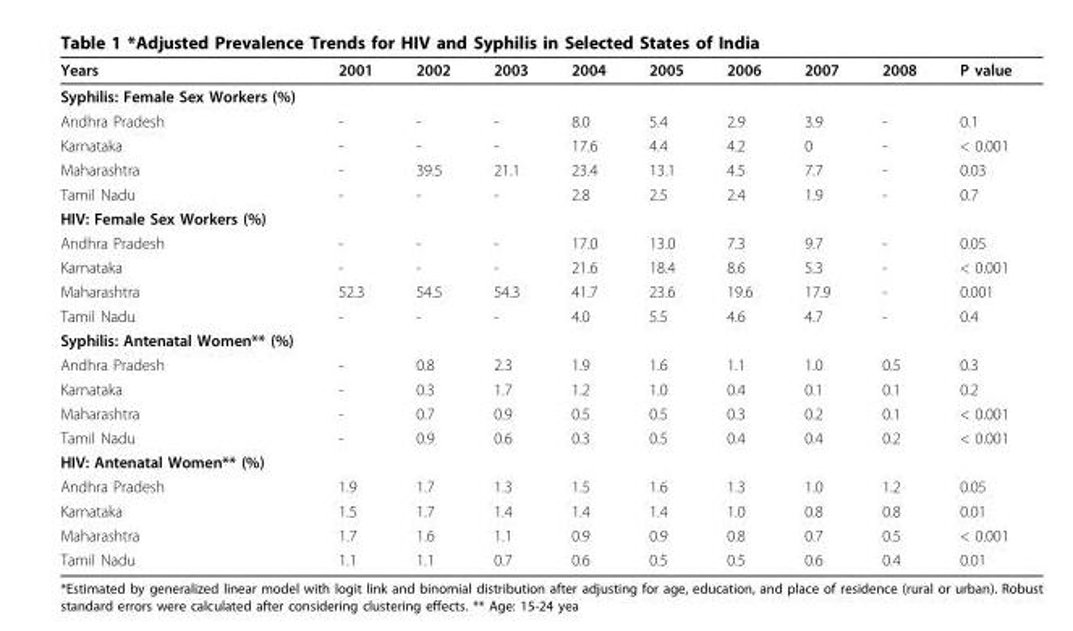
<table><thead><tr><td>Years</td><td>2001</td><td>2002</td><td>2003</td><td>2004</td><td>2005</td><td>2006</td><td>2007</td><td>2008</td><td>P value</td></tr></thead><tbody><tr><td colspan="10">Syphilis: Female Sex Workers (%)</td></tr><tr><td>Andhra Pradesh</td><td>-</td><td>-</td><td>-</td><td>8.0</td><td>5.4</td><td>2.9</td><td>3.9</td><td>-</td><td>0.1</td></tr><tr><td>Karnataka</td><td>-</td><td>-</td><td>-</td><td>17.6</td><td>4.4</td><td>4.2</td><td>0</td><td>-</td><td>&lt; 0.001</td></tr><tr><td>Maharashtra</td><td>-</td><td>39.5</td><td>21.1</td><td>23.4</td><td>13.1</td><td>4.5</td><td>7.7</td><td>-</td><td>0.03</td></tr><tr><td>Tamil Nadu</td><td>-</td><td>-</td><td>-</td><td>2.8</td><td>2.5</td><td>2.4</td><td>1.9</td><td>-</td><td>0.7</td></tr><tr><td colspan="10">HIV: Female Sex Workers (%)</td></tr><tr><td>Andhra Pradesh</td><td>-</td><td>-</td><td>-</td><td>17.0</td><td>13.0</td><td>7.3</td><td>9.7</td><td>-</td><td>0.05</td></tr><tr><td>Karnataka</td><td>-</td><td>-</td><td>-</td><td>21.6</td><td>18.4</td><td>8.6</td><td>5.3</td><td>-</td><td>&lt; 0.001</td></tr><tr><td>Maharashtra</td><td>52.3</td><td>54.5</td><td>54.3</td><td>41.7</td><td>23.6</td><td>19.6</td><td>17.9</td><td>-</td><td>0.001</td></tr><tr><td>Tamil Nadu</td><td>-</td><td>-</td><td>-</td><td>4.0</td><td>5.5</td><td>4.6</td><td>4.7</td><td>-</td><td>0.4</td></tr><tr><td colspan="10">Syphilis: Antenatal Women** (%)</td></tr><tr><td>Andhra Pradesh</td><td>-</td><td>0.8</td><td>2.3</td><td>1.9</td><td>1.6</td><td>1.1</td><td>1.0</td><td>0.5</td><td>0.3</td></tr><tr><td>Karnataka</td><td>-</td><td>0.3</td><td>1.7</td><td>1.2</td><td>1.0</td><td>0.4</td><td>0.1</td><td>0.1</td><td>0.2</td></tr><tr><td>Maharashtra</td><td>-</td><td>0.7</td><td>0.9</td><td>0.5</td><td>0.5</td><td>0.3</td><td>0.2</td><td>0.1</td><td>&lt; 0.001</td></tr><tr><td>Tamil Nadu</td><td>-</td><td>0.9</td><td>0.6</td><td>0.3</td><td>0.5</td><td>0.4</td><td>0.4</td><td>0.2</td><td>&lt; 0.001</td></tr><tr><td colspan="10">HIV: Antenatal Women** (%)</td></tr><tr><td>Andhra Pradesh</td><td>1.9</td><td>1.7</td><td>1.3</td><td>1.5</td><td>1.6</td><td>1.3</td><td>1.0</td><td>1.2</td><td>0.05</td></tr><tr><td>Karnataka</td><td>1.5</td><td>1.7</td><td>1.4</td><td>1.4</td><td>1.4</td><td>1.0</td><td>0.8</td><td>0.8</td><td>0.01</td></tr><tr><td>Maharashtra</td><td>1.7</td><td>1.6</td><td>1.1</td><td>0.9</td><td>0.9</td><td>0.8</td><td>0.7</td><td>0.5</td><td>&lt; 0.001</td></tr><tr><td>Tamil Nadu</td><td>1.1</td><td>1.1</td><td>0.7</td><td>0.6</td><td>0.5</td><td>0.5</td><td>0.6</td><td>0.4</td><td>0.01</td></tr></tbody></table>